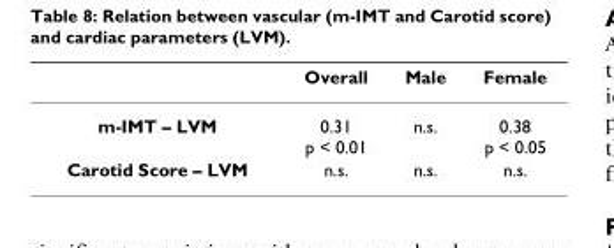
<table><thead><tr><td></td><td>Overall</td><td>Male</td><td>Female</td></tr></thead><tbody><tr><td>m-IMT – LVM</td><td>0.31 p &lt; 0.01</td><td>n.s.</td><td>0.38 p &lt; 0.05</td></tr><tr><td>Carotid Score – LVM</td><td>n.s.</td><td>n.s.</td><td>n.s.</td></tr></tbody></table>